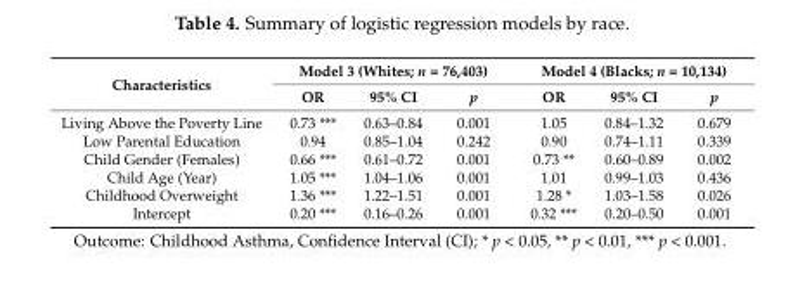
<table><thead><tr><td rowspan="2">Characteristics</td><td colspan="3">Model 3 (Whites; n = 76,403)</td><td colspan="3">Model 4 (Blacks; n = 10,134)</td></tr><tr><td>OR</td><td>95% CI</td><td>p</td><td>OR</td><td>95% CI</td><td>p</td></tr></thead><tbody><tr><td>Living Above the Poverty Line</td><td>0.73 ***</td><td>0.63–0.84</td><td>0.001</td><td>1.05</td><td>0.84–1.32</td><td>0.679</td></tr><tr><td>Low Parental Education</td><td>0.94</td><td>0.85–1.04</td><td>0.242</td><td>0.90</td><td>0.74–1.11</td><td>0.339</td></tr><tr><td>Child Gender (Females)</td><td>0.66 ***</td><td>0.61–0.72</td><td>0.001</td><td>0.73 **</td><td>0.60–0.89</td><td>0.002</td></tr><tr><td>Child Age (Year)</td><td>1.05 ***</td><td>1.04–1.06</td><td>0.001</td><td>1.01</td><td>0.99–1.03</td><td>0.436</td></tr><tr><td>Childhood Overweight</td><td>1.36 ***</td><td>1.22–1.51</td><td>0.001</td><td>1.28 *</td><td>1.03–1.58</td><td>0.026</td></tr><tr><td>Intercept</td><td>0.20 ***</td><td>0.16–0.26</td><td>0.001</td><td>0.32 ***</td><td>0.20–0.50</td><td>0.001</td></tr></tbody></table>